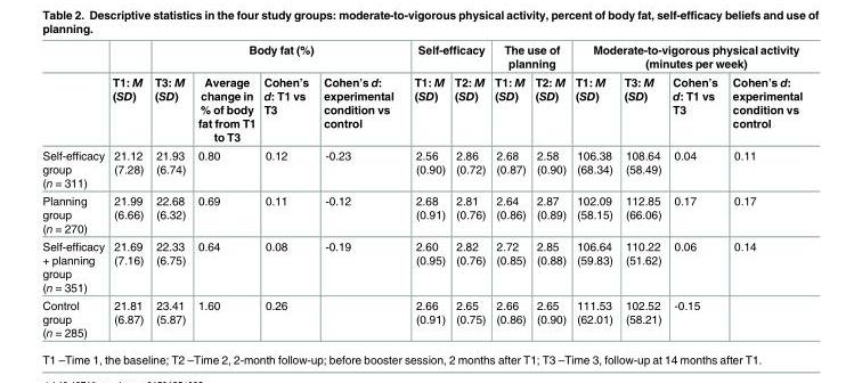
<table><thead><tr><td rowspan="2"></td><td rowspan="2">T1: M (SD)</td><td colspan="4">Body fat (%)</td><td colspan="2">Self-efficacy</td><td colspan="2">The use of planning</td><td colspan="4">Moderate-to-vigorous physical activity (minutes per week)</td></tr><tr><td>T3: M (SD)</td><td>Average change in % of body fat from T1 to T3</td><td>Cohen’s d: T1 vs T3</td><td>Cohen’s d: experimental condition vs control</td><td>T1: M (SD)</td><td>T2: M (SD)</td><td>T1: M (SD)</td><td>T2: M (SD)</td><td>T1: M (SD)</td><td>T3: M (SD)</td><td>Cohen’s d: T1 vs T3</td><td>Cohen’s d: experimental condition vs control</td></tr></thead><tbody><tr><td>Self-efficacy group (n = 311)</td><td>21.12 (7.28)</td><td>21.93 (6.74)</td><td>0.80</td><td>0.12</td><td>-0.23</td><td>2.56 (0.90)</td><td>2.86 (0.72)</td><td>2.68 (0.87)</td><td>2.58 (0.90)</td><td>106.38 (68.34)</td><td>108.64 (58.49)</td><td>0.04</td><td>0.11</td></tr><tr><td>Planning group (n = 270)</td><td>21.99 (6.66)</td><td>22.68 (6.32)</td><td>0.69</td><td>0.11</td><td>-0.12</td><td>2.68 (0.91)</td><td>2.81 (0.76)</td><td>2.64 (0.86)</td><td>2.87 (0.89)</td><td>102.09 (58.15)</td><td>112.85 (66.06)</td><td>0.17</td><td>0.17</td></tr><tr><td>Self-efficacy + planning group (n = 351)</td><td>21.69 (7.16)</td><td>22.33 (6.75)</td><td>0.64</td><td>0.08</td><td>-0.19</td><td>2.60 (0.95)</td><td>2.82 (0.76)</td><td>2.72 (0.85)</td><td>2.85 (0.88)</td><td>106.64 (59.83)</td><td>110.22 (51.62)</td><td>0.06</td><td>0.14</td></tr><tr><td>Control group (n = 285)</td><td>21.81 (6.87)</td><td>23.41 (5.87)</td><td>1.60</td><td>0.26</td><td></td><td>2.66 (0.91)</td><td>2.65 (0.75)</td><td>2.66 (0.86)</td><td>2.65 (0.90)</td><td>111.53 (62.01)</td><td>102.52 (58.21)</td><td>-0.15</td><td></td></tr></tbody></table>